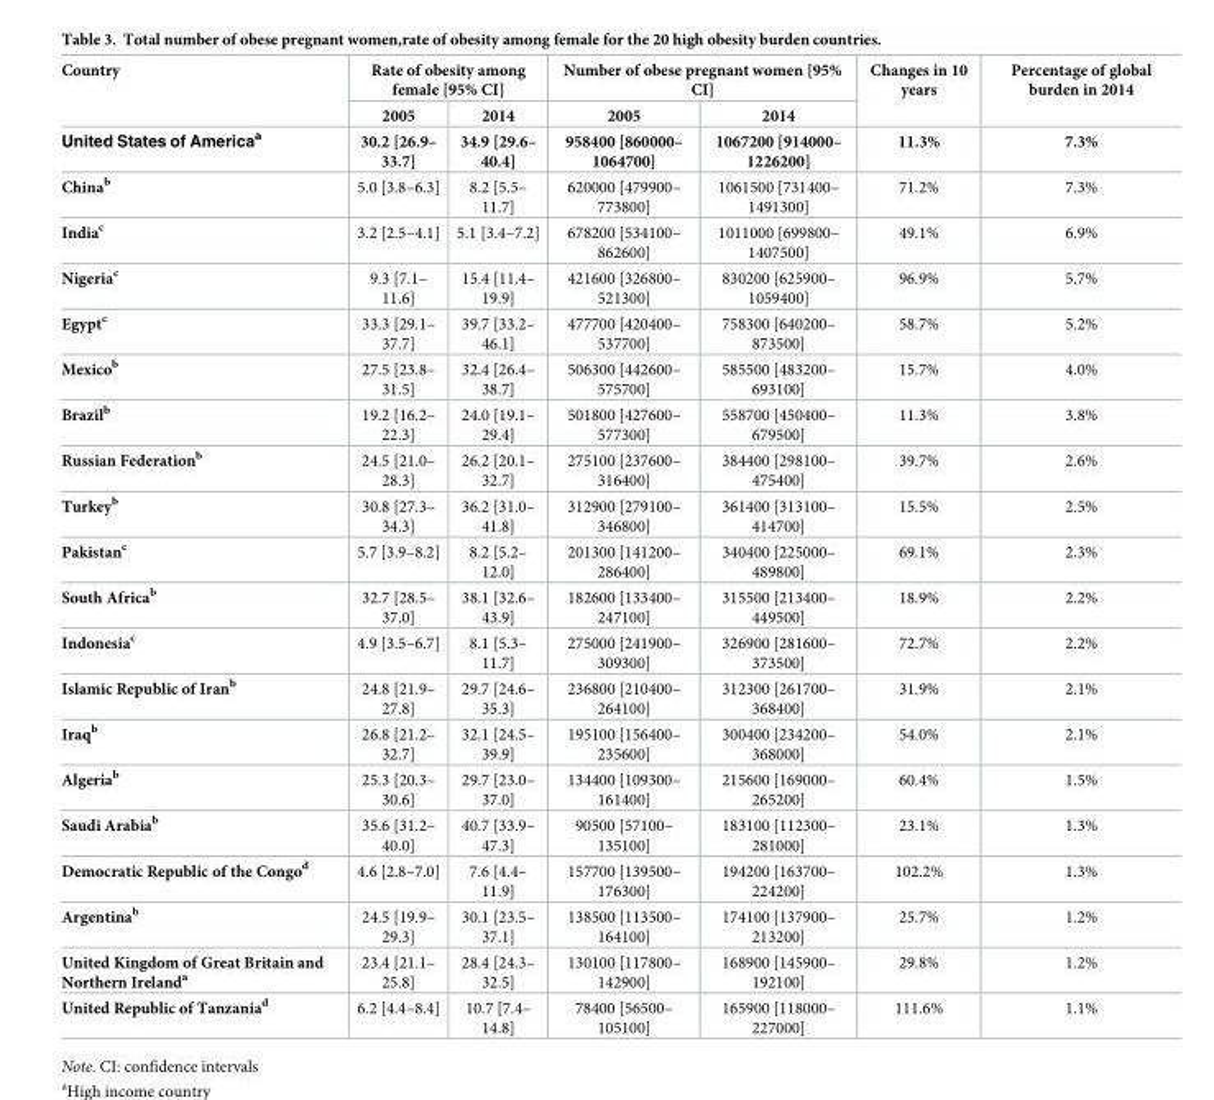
<table><thead><tr><td rowspan="3">Country United States of America<sup>a</sup></td><td colspan="2">Rate of obesity among female [95% CI]</td><td colspan="2">Number of obese pregnant women [95% CI]</td><td rowspan="3">Changes in 10 years 11.3%</td><td rowspan="3">Percentage of global burden in 2014 7.3%</td></tr><tr><td rowspan="2">2005 30.2 [26.9– 33.7]</td><td rowspan="2">2014 34.9 [29.6– 40.4]</td><td rowspan="2">2005 958400 [860000– 1064700]</td><td rowspan="2">2014 1067200 [914000– 1226200]</td></tr><tr></tr></thead><tbody><tr><td>China<sup>b</sup></td><td>5.0 [3.8–6.3]</td><td>8.2 [5.5– 11.7]</td><td>620000 [479900– 773800]</td><td>1061500 [731400– 1491300]</td><td>71.2%</td><td>7.3%</td></tr><tr><td>India<sup>c</sup></td><td>3.2 [2.5–4.1]</td><td>5.1 [3.4–7.2]</td><td>678200 [534100– 862600]</td><td>1011000 [699800– 1407500]</td><td>49.1%</td><td>6.9%</td></tr><tr><td>Nigeria<sup>c</sup></td><td>9.3 [7.1– 11.6]</td><td>15.4 [11.4– 19.9]</td><td>421600 [326800– 521300]</td><td>830200 [625900– 1059400]</td><td>96.9%</td><td>5.7%</td></tr><tr><td>Egypt<sup>c</sup></td><td>33.3 [29.1– 37.7]</td><td>39.7 [33.2– 46.1]</td><td>477700 [420400– 537700]</td><td>758300 [640200– 873500]</td><td>58.7%</td><td>5.2%</td></tr><tr><td>Mexico<sup>b</sup></td><td>27.5 [23.8– 31.5]</td><td>32.4 [26.4– 38.7]</td><td>506300 [442600– 575700]</td><td>585500 [483200– 693100]</td><td>15.7%</td><td>4.0%</td></tr><tr><td>Brazil<sup>b</sup></td><td>19.2 [16.2– 22.3]</td><td>24.0 [19.1– 29.4]</td><td>501800 [427600– 577300]</td><td>558700 [450400– 679500]</td><td>11.3%</td><td>3.8%</td></tr><tr><td>Russian Federation<sup>b</sup></td><td>24.5 [21.0– 28.3]</td><td>26.2 [20.1– 32.7]</td><td>275100 [237600– 316400]</td><td>384400 [298100– 475400]</td><td>39.7%</td><td>2.6%</td></tr><tr><td>Turkey<sup>b</sup></td><td>30.8 [27.3– 34.3]</td><td>36.2 [31.0– 41.8]</td><td>312900 [279100– 346800]</td><td>361400 [313100– 414700]</td><td>15.5%</td><td>2.5%</td></tr><tr><td>Pakistan<sup>c</sup></td><td>5.7 [3.9–8.2]</td><td>8.2 [5.2– 12.0]</td><td>201300 [141200– 286400]</td><td>340400 [225000– 489800]</td><td>69.1%</td><td>2.3%</td></tr><tr><td>South Africa<sup>b</sup></td><td>32.7 [28.5– 37.0]</td><td>38.1 [32.6– 43.9]</td><td>182600 [133400– 247100]</td><td>315500 [213400– 449500]</td><td>18.9%</td><td>2.2%</td></tr><tr><td>Indonesia<sup>c</sup></td><td>4.9 [3.5–6.7]</td><td>8.1 [5.3– 11.7]</td><td>275000 [241900– 309300]</td><td>326900 [281600– 373500]</td><td>72.7%</td><td>2.2%</td></tr><tr><td>Islamic Republic of Iran<sup>b</sup></td><td>24.8 [21.9– 27.8]</td><td>29.7 [24.6– 35.3]</td><td>236800 [210400– 264100]</td><td>312300 [261700– 368400]</td><td>31.9%</td><td>2.1%</td></tr><tr><td>Iraq<sup>b</sup></td><td>26.8 [21.2– 32.7]</td><td>32.1 [24.5– 39.9]</td><td>195100 [156400– 235600]</td><td>300400 [234200– 368000]</td><td>54.0%</td><td>2.1%</td></tr><tr><td>Algeria<sup>b</sup></td><td>25.3 [20.3– 30.6]</td><td>29.7 [23.0– 37.0]</td><td>134400 [109300– 161400]</td><td>215600 [169000– 265200]</td><td>60.4%</td><td>1.5%</td></tr><tr><td>Saudi Arabia<sup>b</sup></td><td>35.6 [31.2– 40.0]</td><td>40.7 [33.9– 47.3]</td><td>90500 [57100– 135100]</td><td>183100 [112300– 281000]</td><td>23.1%</td><td>1.3%</td></tr><tr><td>Democratic Republic of the Congo<sup>d</sup></td><td>4.6 [2.8–7.0]</td><td>7.6 [4.4– 11.9]</td><td>157700 [139500– 176300]</td><td>194200 [163700– 224200]</td><td>102.2%</td><td>1.3%</td></tr><tr><td>Argentina<sup>b</sup></td><td>24.5 [19.9– 29.3]</td><td>30.1 [23.5– 37.1]</td><td>138500 [113500– 164100]</td><td>174100 [137900– 213200]</td><td>25.7%</td><td>1.2%</td></tr><tr><td>United Kingdom of Great Britain and Northern Ireland<sup>a</sup></td><td>23.4 [21.1– 25.8]</td><td>28.4 [24.3– 32.5]</td><td>130100 [117800– 142900]</td><td>168900 [145900– 192100]</td><td>29.8%</td><td>1.2%</td></tr><tr><td>United Republic of Tanzania<sup>d</sup></td><td>6.2 [4.4–8.4]</td><td>10.7 [7.4– 14.8]</td><td>78400 [56500– 105100]</td><td>165900 [118000– 227000]</td><td>111.6%</td><td>1.1%</td></tr></tbody></table>